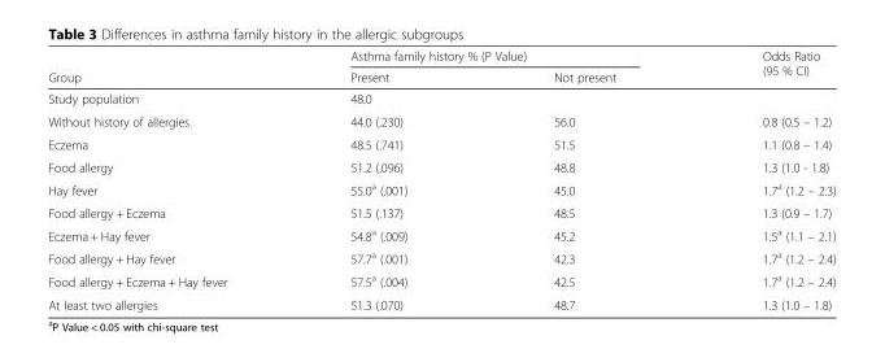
<table><thead><tr><td rowspan="2">Group</td><td colspan="2">Asthma family history % (P Value)</td><td rowspan="2">Odds Ratio (95 % CI)</td></tr><tr><td>Present</td><td>Not present</td></tr></thead><tbody><tr><td>Study population</td><td>48.0</td><td></td><td></td></tr><tr><td>Without history of allergies</td><td>44.0 (.230)</td><td>56.0</td><td>0.8 (0.5 – 1.2)</td></tr><tr><td>Eczema</td><td>48.5 (.741)</td><td>51.5</td><td>1.1 (0.8 – 1.4)</td></tr><tr><td>Food allergy</td><td>51.2 (.096)</td><td>48.8</td><td>1.3 (1.0 - 1.8)</td></tr><tr><td>Hay fever</td><td>55.0<sup>a</sup> (.001)</td><td>45.0</td><td>1.7<sup>a</sup> (1.2 – 2.3)</td></tr><tr><td>Food allergy + Eczema</td><td>51.5 (.137)</td><td>48.5</td><td>1.3 (0.9 – 1.7)</td></tr><tr><td>Eczema + Hay fever</td><td>54.8<sup>a</sup> (.009)</td><td>45.2</td><td>1.5<sup>a</sup> (1.1 – 2.1)</td></tr><tr><td>Food allergy + Hay fever</td><td>57.7<sup>a</sup> (.001)</td><td>42.3</td><td>1.7<sup>a</sup> (1.2 – 2.4)</td></tr><tr><td>Food allergy + Eczema + Hay fever</td><td>57.5<sup>a</sup> (.004)</td><td>42.5</td><td>1.7<sup>a</sup> (1.2 – 2.4)</td></tr><tr><td>At least two allergies</td><td>51.3 (.070)</td><td>48.7</td><td>1.3 (1.0 – 1.8)</td></tr></tbody></table>